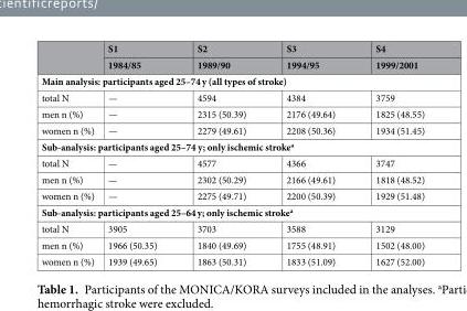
<table><thead><tr><td rowspan="2"></td><td rowspan="2">S1 1984/85</td><td rowspan="2">S2 1989/90</td><td rowspan="2">S3 1994/95</td><td rowspan="2">S4 1999/2001</td></tr><tr></tr></thead><tbody><tr><td colspan="5">Main analysis: participants aged 25–74 y (all types of stroke)</td></tr><tr><td>total N</td><td>—</td><td>4594</td><td>4384</td><td>3759</td></tr><tr><td>men n (%)</td><td>—</td><td>2315 (50.39)</td><td>2176 (49.64)</td><td>1825 (48.55)</td></tr><tr><td>women n (%)</td><td>—</td><td>2279 (49.61)</td><td>2208 (50.36)</td><td>1934 (51.45)</td></tr><tr><td colspan="5">Sub-analysis: participants aged 25–74 y; only ischemic stroke<sup>a</sup></td></tr><tr><td>total N</td><td>—</td><td>4577</td><td>4366</td><td>3747</td></tr><tr><td>men n (%)</td><td>—</td><td>2302 (50.29)</td><td>2166 (49.61)</td><td>1818 (48.52)</td></tr><tr><td>women n (%)</td><td>—</td><td>2275 (49.71)</td><td>2200 (50.39)</td><td>1929 (51.48)</td></tr><tr><td colspan="5">Sub-analysis: participants aged 25–64 y; only ischemic stroke<sup>a</sup></td></tr><tr><td>total N</td><td>3905</td><td>3703</td><td>3588</td><td>3129</td></tr><tr><td>men n (%)</td><td>1966 (50.35)</td><td>1840 (49.69)</td><td>1755 (48.91)</td><td>1502 (48.00)</td></tr><tr><td>women n (%)</td><td>1939 (49.65)</td><td>1863 (50.31)</td><td>1833 (51.09)</td><td>1627 (52.00)</td></tr></tbody></table>